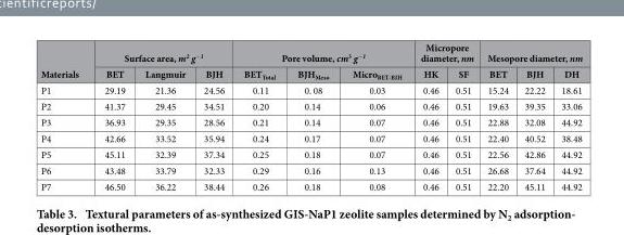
<table><thead><tr><td rowspan="2">Materials</td><td colspan="3">Surface area, m<sup>2</sup> g<sup>−1</sup></td><td colspan="3">Pore volume, cm<sup>3</sup> g<sup>−1</sup></td><td colspan="2">Micropore diameter, nm</td><td colspan="3">Mesopore diameter, nm</td></tr><tr><td>BET</td><td>Langmuir</td><td>BJH</td><td>BET<sub>Total</sub></td><td>BJH<sub>Meso</sub></td><td>Micro<sub>BET-BJH</sub></td><td>HK</td><td>SF</td><td>BET</td><td>BJH</td><td>DH</td></tr></thead><tbody><tr><td>P1</td><td>29.19</td><td>21.36</td><td>24.56</td><td>0.11</td><td>0. 08</td><td>0.03</td><td>0.46</td><td>0.51</td><td>15.24</td><td>22.22</td><td>18.61</td></tr><tr><td>P2</td><td>41.37</td><td>29.45</td><td>34.51</td><td>0.20</td><td>0.14</td><td>0.06</td><td>0.46</td><td>0.51</td><td>19.63</td><td>39.35</td><td>33.06</td></tr><tr><td>P3</td><td>36.93</td><td>29.35</td><td>28.56</td><td>0.21</td><td>0.14</td><td>0.07</td><td>0.46</td><td>0.51</td><td>22.88</td><td>32.08</td><td>44.92</td></tr><tr><td>P4</td><td>42.66</td><td>33.52</td><td>35.94</td><td>0.24</td><td>0.17</td><td>0.07</td><td>0.46</td><td>0.51</td><td>22.40</td><td>40.52</td><td>38.48</td></tr><tr><td>P5</td><td>45.11</td><td>32.39</td><td>37.34</td><td>0.25</td><td>0.18</td><td>0.07</td><td>0.46</td><td>0.51</td><td>22.56</td><td>42.86</td><td>44.92</td></tr><tr><td>P6</td><td>43.48</td><td>33.79</td><td>32.33</td><td>0.29</td><td>0.16</td><td>0.13</td><td>0.46</td><td>0.51</td><td>26.68</td><td>37.64</td><td>44.92</td></tr><tr><td>P7</td><td>46.50</td><td>36.22</td><td>38.44</td><td>0.26</td><td>0.18</td><td>0.08</td><td>0.46</td><td>0.51</td><td>22.20</td><td>45.11</td><td>44.92</td></tr></tbody></table>